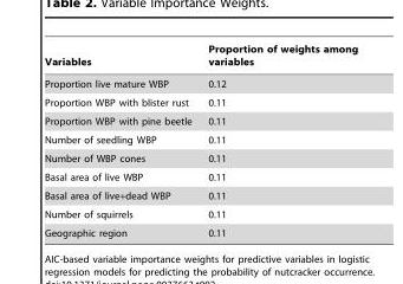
<table><thead><tr><td>Variables</td><td>Proportion of weights among variables</td></tr></thead><tbody><tr><td>Proportion live mature WBP</td><td>0.12</td></tr><tr><td>Proportion WBP with blister rust</td><td>0.11</td></tr><tr><td>Proportion WBP with pine beetle</td><td>0.11</td></tr><tr><td>Number of seedling WBP</td><td>0.11</td></tr><tr><td>Number of WBP cones</td><td>0.11</td></tr><tr><td>Basal area of live WBP</td><td>0.11</td></tr><tr><td>Basal area of live+dead WBP</td><td>0.11</td></tr><tr><td>Number of squirrels</td><td>0.11</td></tr><tr><td>Geographic region</td><td>0.11</td></tr></tbody></table>